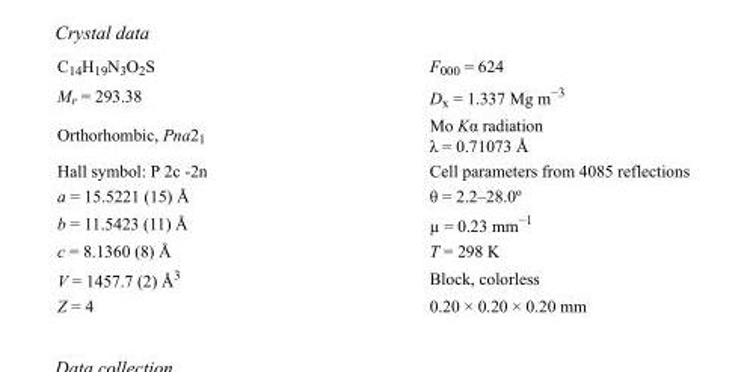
<table><tbody><tr><td>C<sub>14</sub>H<sub>19</sub>N<sub>3</sub>O<sub>2</sub>S</td><td>F000 = 624</td></tr><tr><td>M<sub>r</sub> = 293.38</td><td>D<sub>x</sub> = 1.337 Mg m<sup>−3</sup></td></tr><tr><td>Orthorhombic, Pna2<sub>1</sub></td><td>Mo Kα radiation λ = 0.71073 Å</td></tr><tr><td>Hall symbol: P 2c -2n</td><td>Cell parameters from 4085 reflections</td></tr><tr><td>a = 15.5221 (15) Å</td><td>θ = 2.2–28.0º</td></tr><tr><td>b = 11.5423 (11) Å</td><td>µ = 0.23 mm<sup>−1</sup></td></tr><tr><td>c = 8.1360 (8) Å</td><td>T = 298 K</td></tr><tr><td>V = 1457.7 (2) Å<sup>3</sup></td><td>Block, colorless</td></tr><tr><td>Z = 4</td><td>0.20 × 0.20 × 0.20 mm</td></tr></tbody></table>